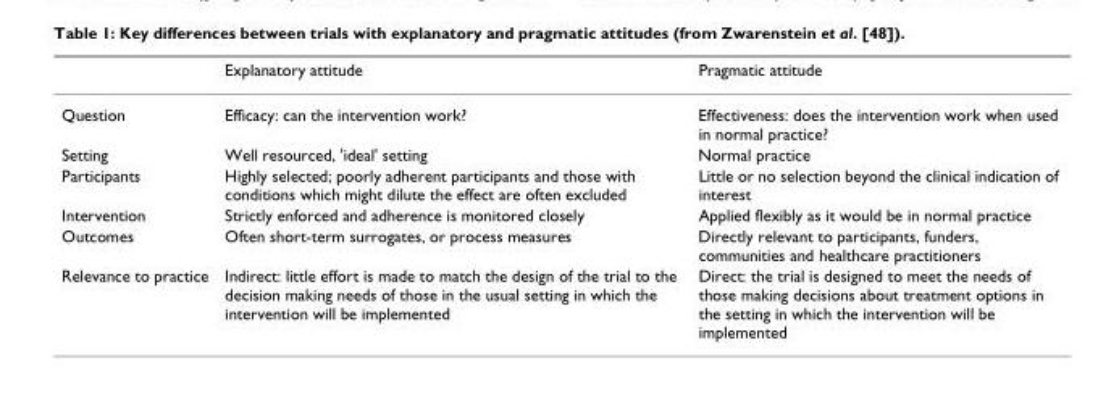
<table><thead><tr><td></td><td>Explanatory attitude</td><td>Pragmatic attitude</td></tr></thead><tbody><tr><td>Question</td><td>Efficacy: can the intervention work?</td><td>Effectiveness: does the intervention work when used in normal practice?</td></tr><tr><td>Setting</td><td>Well resourced, &#x27;ideal&#x27; setting</td><td>Normal practice</td></tr><tr><td>Participants</td><td>Highly selected; poorly adherent participants and those with conditions which might dilute the effect are often excluded</td><td>Little or no selection beyond the clinical indication of interest</td></tr><tr><td>Intervention</td><td>Strictly enforced and adherence is monitored closely</td><td>Applied flexibly as it would be in normal practice</td></tr><tr><td>Outcomes</td><td>Often short-term surrogates, or process measures</td><td>Directly relevant to participants, funders, communities and healthcare practitioners</td></tr><tr><td>Relevance to practice</td><td>Indirect: little effort is made to match the design of the trial to the decision making needs of those in the usual setting in which the intervention will be implemented</td><td>Direct: the trial is designed to meet the needs of those making decisions about treatment options in the setting in which the intervention will be implemented</td></tr></tbody></table>